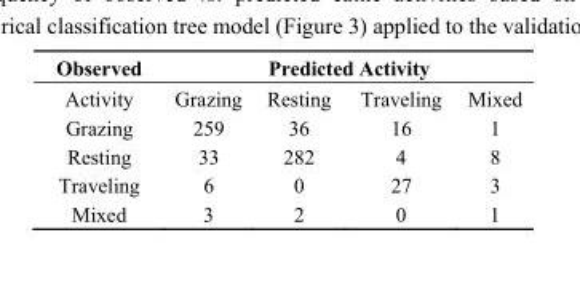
<table><thead><tr><td rowspan="2">Observed Activity</td><td colspan="4">Predicted Activity</td></tr><tr><td>Grazing</td><td>Resting</td><td>Traveling</td><td>Mixed</td></tr></thead><tbody><tr><td>Grazing</td><td>259</td><td>36</td><td>16</td><td>1</td></tr><tr><td>Resting</td><td>33</td><td>282</td><td>4</td><td>8</td></tr><tr><td>Traveling</td><td>6</td><td>0</td><td>27</td><td>3</td></tr><tr><td>Mixed</td><td>3</td><td>2</td><td>0</td><td>1</td></tr></tbody></table>